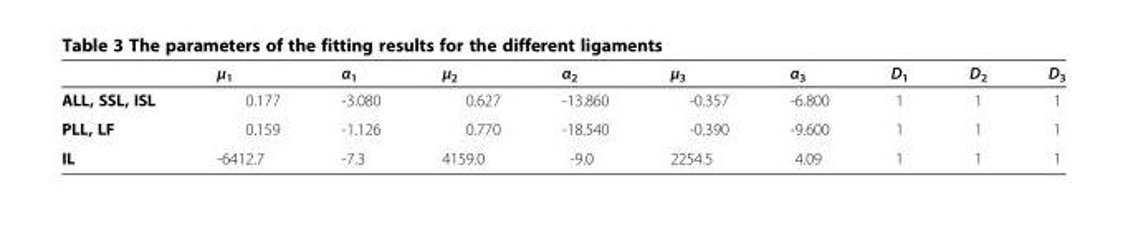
<table><thead><tr><td></td><td>μ<sub>1</sub></td><td>α<sub>1</sub></td><td>μ<sub>2</sub></td><td>α<sub>2</sub></td><td>μ<sub>3</sub></td><td>α<sub>3</sub></td><td>D<sub>1</sub></td><td>D<sub>2</sub></td><td>D<sub>3</sub></td></tr></thead><tbody><tr><td>ALL, SSL, ISL</td><td>0.177</td><td>-3.080</td><td>0.627</td><td>-13.860</td><td>-0.357</td><td>-6.800</td><td>1</td><td>1</td><td>1</td></tr><tr><td>PLL, LF</td><td>0.159</td><td>-1.126</td><td>0.770</td><td>-18.540</td><td>-0.390</td><td>-9.600</td><td>1</td><td>1</td><td>1</td></tr><tr><td>IL</td><td>-6412.7</td><td>-7.3</td><td>4159.0</td><td>-9.0</td><td>2254.5</td><td>4.09</td><td>1</td><td>1</td><td>1</td></tr></tbody></table>